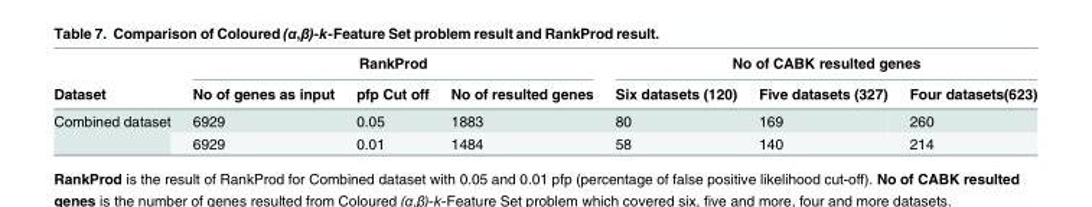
<table><thead><tr><td rowspan="2">Dataset</td><td colspan="3">RankProd</td><td colspan="3">No of CABK resulted genes</td></tr><tr><td>No of genes as input</td><td>pfp Cut off</td><td>No of resulted genes</td><td>Six datasets (120)</td><td>Five datasets (327)</td><td>Four datasets(623)</td></tr></thead><tbody><tr><td rowspan="2">Combined dataset</td><td>6929</td><td>0.05</td><td>1883</td><td>80</td><td>169</td><td>260</td></tr><tr><td>6929</td><td>0.01</td><td>1484</td><td>58</td><td>140</td><td>214</td></tr></tbody></table>